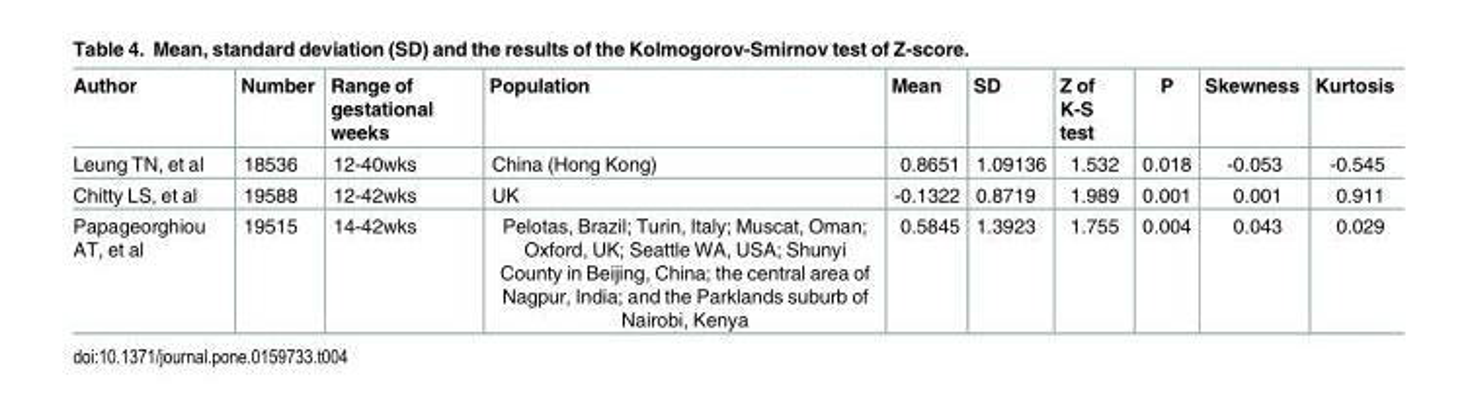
<table><thead><tr><td>Author</td><td>Number</td><td>Range of gestational weeks</td><td>Population</td><td>Mean</td><td>SD</td><td>Z of K-S test</td><td>P</td><td>Skewness</td><td>Kurtosis</td></tr></thead><tbody><tr><td>Leung TN, et al</td><td>18536</td><td>12-40wks</td><td>China (Hong Kong)</td><td>0.8651</td><td>1.09136</td><td>1.532</td><td>0.018</td><td>-0.053</td><td>-0.545</td></tr><tr><td>Chitty LS, et al</td><td>19588</td><td>12-42wks</td><td>UK</td><td>-0.1322</td><td>0.8719</td><td>1.989</td><td>0.001</td><td>0.001</td><td>0.911</td></tr><tr><td>Papageorghiou AT, et al</td><td>19515</td><td>14-42wks</td><td>Pelotas, Brazil; Turin, Italy; Muscat, Oman; Oxford, UK; Seattle WA, USA; Shunyi County in Beijing, China; the central area of Nagpur, India; and the Parklands suburb of Nairobi, Kenya</td><td>0.5845</td><td>1.3923</td><td>1.755</td><td>0.004</td><td>0.043</td><td>0.029</td></tr></tbody></table>